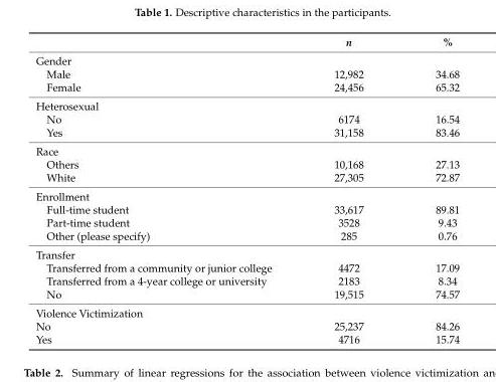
<table><thead><tr><td></td><td>n</td><td>%</td></tr></thead><tbody><tr><td colspan="3">Gender</td></tr><tr><td>Male</td><td>12,982</td><td>34.68</td></tr><tr><td>Female</td><td>24,456</td><td>65.32</td></tr><tr><td colspan="3">Heterosexual</td></tr><tr><td>No</td><td>6174</td><td>16.54</td></tr><tr><td>Yes</td><td>31,158</td><td>83.46</td></tr><tr><td colspan="3">Race</td></tr><tr><td>Others</td><td>10,168</td><td>27.13</td></tr><tr><td>White</td><td>27,305</td><td>72.87</td></tr><tr><td colspan="3">Enrollment</td></tr><tr><td>Full-time student</td><td>33,617</td><td>89.81</td></tr><tr><td>Part-time student</td><td>3528</td><td>9.43</td></tr><tr><td>Other (please specify)</td><td>285</td><td>0.76</td></tr><tr><td colspan="3">Transfer</td></tr><tr><td>Transferred from a community or junior college</td><td>4472</td><td>17.09</td></tr><tr><td>Transferred from a 4-year college or university</td><td>2183</td><td>8.34</td></tr><tr><td>No</td><td>19,515</td><td>74.57</td></tr><tr><td colspan="3">Violence Victimization</td></tr><tr><td>No</td><td>25,237</td><td>84.26</td></tr><tr><td>Yes</td><td>4716</td><td>15.74</td></tr></tbody></table>